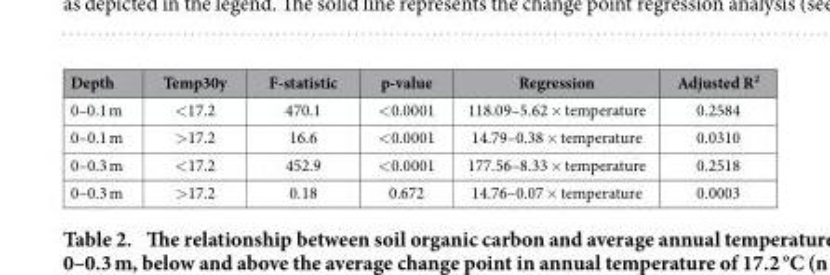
<table><thead><tr><td>Depth</td><td>Temp30y</td><td>F-statistic</td><td>p-value</td><td>Regression</td><td>Adjusted R<sup>2</sup></td></tr></thead><tbody><tr><td>0–0.1 m</td><td>&lt; 17.2</td><td>470.1</td><td>&lt; 0.0001</td><td>118.09–5.62 × temperature</td><td>0.2584</td></tr><tr><td>0–0.1 m</td><td>&gt; 17.2</td><td>16.6</td><td>&lt; 0.0001</td><td>14.79–0.38 × temperature</td><td>0.0310</td></tr><tr><td>0–0.3 m</td><td>&lt; 17.2</td><td>452.9</td><td>&lt; 0.0001</td><td>177.56–8.33 × temperature</td><td>0.2518</td></tr><tr><td>0–0.3 m</td><td>&gt; 17.2</td><td>0.18</td><td>0.672</td><td>14.76–0.07 × temperature</td><td>0.0003</td></tr></tbody></table>